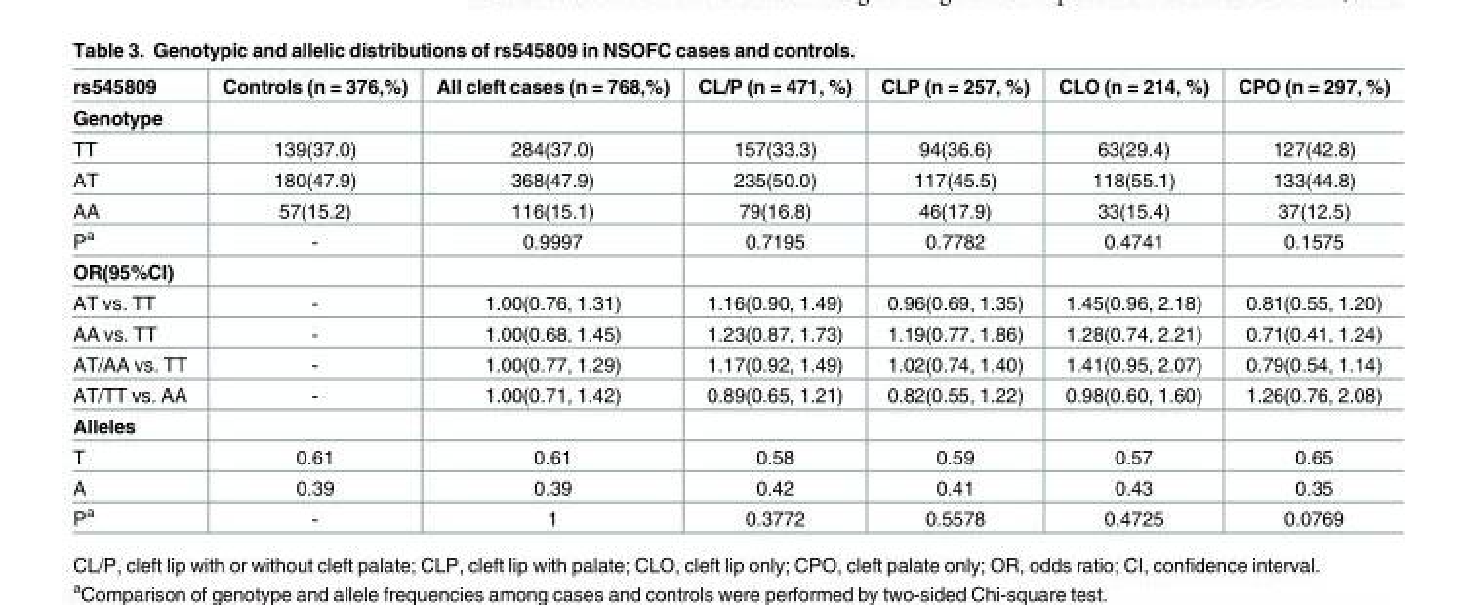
<table><thead><tr><td>rs545809</td><td>Controls (n = 376,%)</td><td>All cleft cases (n = 768,%)</td><td>CL/P (n = 471, %)</td><td>CLP (n = 257, %)</td><td>CLO (n = 214, %)</td><td>CPO (n = 297, %)</td></tr></thead><tbody><tr><td colspan="7">Genotype</td></tr><tr><td>TT</td><td>139(37.0)</td><td>284(37.0)</td><td>157(33.3)</td><td>94(36.6)</td><td>63(29.4)</td><td>127(42.8)</td></tr><tr><td>AT</td><td>180(47.9)</td><td>368(47.9)</td><td>235(50.0)</td><td>117(45.5)</td><td>118(55.1)</td><td>133(44.8)</td></tr><tr><td>AA</td><td>57(15.2)</td><td>116(15.1)</td><td>79(16.8)</td><td>46(17.9)</td><td>33(15.4)</td><td>37(12.5)</td></tr><tr><td>P<sup>a</sup></td><td>-</td><td>0.9997</td><td>0.7195</td><td>0.7782</td><td>0.4741</td><td>0.1575</td></tr><tr><td colspan="7">OR(95%CI)</td></tr><tr><td>AT vs. TT</td><td>-</td><td>1.00(0.76, 1.31)</td><td>1.16(0.90, 1.49)</td><td>0.96(0.69, 1.35)</td><td>1.45(0.96, 2.18)</td><td>0.81(0.55, 1.20)</td></tr><tr><td>AA vs. TT</td><td>-</td><td>1.00(0.68, 1.45)</td><td>1.23(0.87, 1.73)</td><td>1.19(0.77, 1.86)</td><td>1.28(0.74, 2.21)</td><td>0.71(0.41, 1.24)</td></tr><tr><td>AT/AA vs. TT</td><td>-</td><td>1.00(0.77, 1.29)</td><td>1.17(0.92, 1.49)</td><td>1.02(0.74, 1.40)</td><td>1.41(0.95, 2.07)</td><td>0.79(0.54, 1.14)</td></tr><tr><td>AT/TT vs. AA</td><td>-</td><td>1.00(0.71, 1.42)</td><td>0.89(0.65, 1.21)</td><td>0.82(0.55, 1.22)</td><td>0.98(0.60, 1.60)</td><td>1.26(0.76, 2.08)</td></tr><tr><td colspan="7">Alleles</td></tr><tr><td>T</td><td>0.61</td><td>0.61</td><td>0.58</td><td>0.59</td><td>0.57</td><td>0.65</td></tr><tr><td>A</td><td>0.39</td><td>0.39</td><td>0.42</td><td>0.41</td><td>0.43</td><td>0.35</td></tr><tr><td>P<sup>a</sup></td><td>-</td><td>1</td><td>0.3772</td><td>0.5578</td><td>0.4725</td><td>0.0769</td></tr></tbody></table>